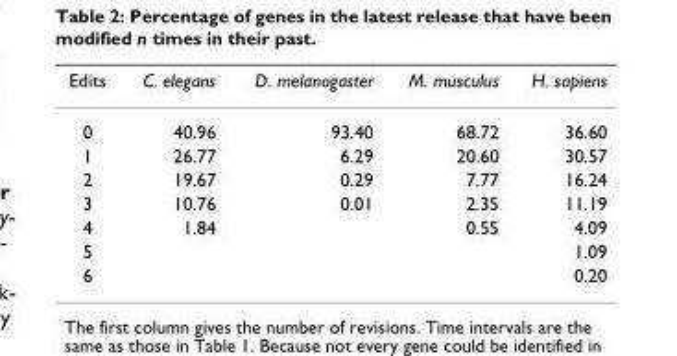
<table><thead><tr><td>Edits</td><td>C. elegans</td><td>D. melanogaster</td><td>M. musculus</td><td>H. sapiens</td></tr></thead><tbody><tr><td>0</td><td>40.96</td><td>93.40</td><td>68.72</td><td>36.60</td></tr><tr><td>1</td><td>26.77</td><td>6.29</td><td>20.60</td><td>30.57</td></tr><tr><td>2</td><td>19.67</td><td>0.29</td><td>7.77</td><td>16.24</td></tr><tr><td>3</td><td>10.76</td><td>0.01</td><td>2.35</td><td>11.19</td></tr><tr><td>4</td><td>1.84</td><td></td><td>0.55</td><td>4.09</td></tr><tr><td>5</td><td></td><td></td><td></td><td>1.09</td></tr><tr><td>6</td><td></td><td></td><td></td><td>0.20</td></tr></tbody></table>